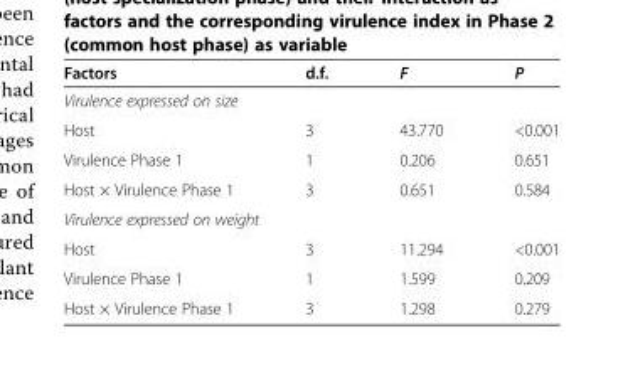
<table><thead><tr><td>Factors</td><td>d.f.</td><td>F</td><td>P</td></tr></thead><tbody><tr><td colspan="4">Virulence expressed on size</td></tr><tr><td>Host</td><td>3</td><td>43.770</td><td>&lt;0.001</td></tr><tr><td>Virulence Phase 1</td><td>1</td><td>0.206</td><td>0.651</td></tr><tr><td>Host × Virulence Phase 1</td><td>3</td><td>0.651</td><td>0.584</td></tr><tr><td colspan="4">Virulence expressed on weight</td></tr><tr><td>Host</td><td>3</td><td>11.294</td><td>&lt;0.001</td></tr><tr><td>Virulence Phase 1</td><td>1</td><td>1.599</td><td>0.209</td></tr><tr><td>Host × Virulence Phase 1</td><td>3</td><td>1.298</td><td>0.279</td></tr></tbody></table>